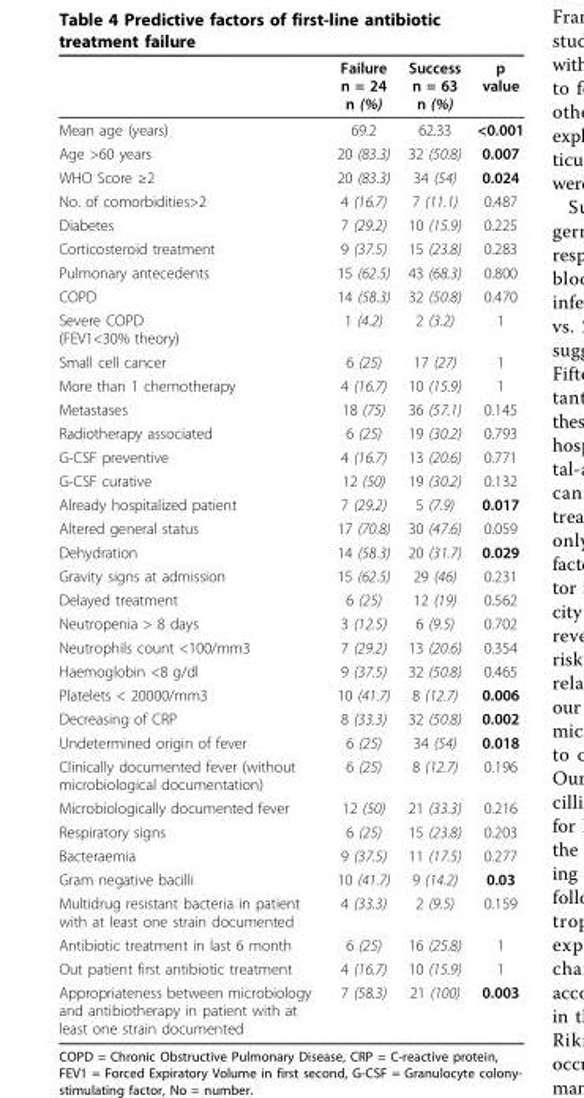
<table><thead><tr><td></td><td>Failure n = 24 n (%)</td><td>Success n = 63 n (%)</td><td>p value</td></tr></thead><tbody><tr><td>Mean age (years)</td><td>69.2</td><td>62.33</td><td>&lt;0.001</td></tr><tr><td>Age &gt;60 years</td><td>20 (83.3)</td><td>32 (50.8)</td><td>0.007</td></tr><tr><td>WHO Score ≥2</td><td>20 (83.3)</td><td>34 (54)</td><td>0.024</td></tr><tr><td>No. of comorbidities&gt;2</td><td>4 (16.7)</td><td>7 (11.1)</td><td>0.487</td></tr><tr><td>Diabetes</td><td>7 (29.2)</td><td>10 (15.9)</td><td>0.225</td></tr><tr><td>Corticosteroid treatment</td><td>9 (37.5)</td><td>15 (23.8)</td><td>0.283</td></tr><tr><td>Pulmonary antecedents</td><td>15 (62.5)</td><td>43 (68.3)</td><td>0.800</td></tr><tr><td>COPD</td><td>14 (58.3)</td><td>32 (50.8)</td><td>0.470</td></tr><tr><td>Severe COPD (FEV1&lt;30% theory)</td><td>1 (4.2)</td><td>2 (3.2)</td><td>1</td></tr><tr><td>Small cell cancer</td><td>6 (25)</td><td>17 (27)</td><td>1</td></tr><tr><td>More than 1 chemotherapy</td><td>4 (16.7)</td><td>10 (15.9)</td><td>1</td></tr><tr><td>Metastases</td><td>18 (75)</td><td>36 (57.1)</td><td>0.145</td></tr><tr><td>Radiotherapy associated</td><td>6 (25)</td><td>19 (30.2)</td><td>0.793</td></tr><tr><td>G-CSF preventive</td><td>4 (16.7)</td><td>13 (20.6)</td><td>0.771</td></tr><tr><td>G-CSF curative</td><td>12 (50)</td><td>19 (30.2)</td><td>0.132</td></tr><tr><td>Already hospitalized patient</td><td>7 (29.2)</td><td>5 (7.9)</td><td>0.017</td></tr><tr><td>Altered general status</td><td>17 (70.8)</td><td>30 (47.6)</td><td>0.059</td></tr><tr><td>Dehydration</td><td>14 (58.3)</td><td>20 (31.7)</td><td>0.029</td></tr><tr><td>Gravity signs at admission</td><td>15 (62.5)</td><td>29 (46)</td><td>0.231</td></tr><tr><td>Delayed treatment</td><td>6 (25)</td><td>12 (19)</td><td>0.562</td></tr><tr><td>Neutropenia &gt; 8 days</td><td>3 (12.5)</td><td>6 (9.5)</td><td>0.702</td></tr><tr><td>Neutrophils count &lt;100/mm3</td><td>7 (29.2)</td><td>13 (20.6)</td><td>0.354</td></tr><tr><td>Haemoglobin &lt;8 g/dl</td><td>9 (37.5)</td><td>32 (50.8)</td><td>0.465</td></tr><tr><td>Platelets &lt; 20000/mm3</td><td>10 (41.7)</td><td>8 (12.7)</td><td>0.006</td></tr><tr><td>Decreasing of CRP</td><td>8 (33.3)</td><td>32 (50.8)</td><td>0.002</td></tr><tr><td>Undetermined origin of fever</td><td>6 (25)</td><td>34 (54)</td><td>0.018</td></tr><tr><td>Clinically documented fever (without microbiological documentation)</td><td>6 (25)</td><td>8 (12.7)</td><td>0.196</td></tr><tr><td>Microbiologically documented fever</td><td>12 (50)</td><td>21 (33.3)</td><td>0.216</td></tr><tr><td>Respiratory signs</td><td>6 (25)</td><td>15 (23.8)</td><td>0.203</td></tr><tr><td>Bacteraemia</td><td>9 (37.5)</td><td>11 (17.5)</td><td>0.277</td></tr><tr><td>Gram negative bacilli</td><td>10 (41.7)</td><td>9 (14.2)</td><td>0.03</td></tr><tr><td>Multidrug resistant bacteria in patient with at least one strain documented</td><td>4 (33.3)</td><td>2 (9.5)</td><td>0.159</td></tr><tr><td>Antibiotic treatment in last 6 month</td><td>6 (25)</td><td>16 (25.8)</td><td>1</td></tr><tr><td>Out patient first antibiotic treatment</td><td>4 (16.7)</td><td>10 (15.9)</td><td>1</td></tr><tr><td>Appropriateness between microbiology and antibiotherapy in patient with at least one strain documented</td><td>7 (58.3)</td><td>21 (100)</td><td>0.003</td></tr></tbody></table>